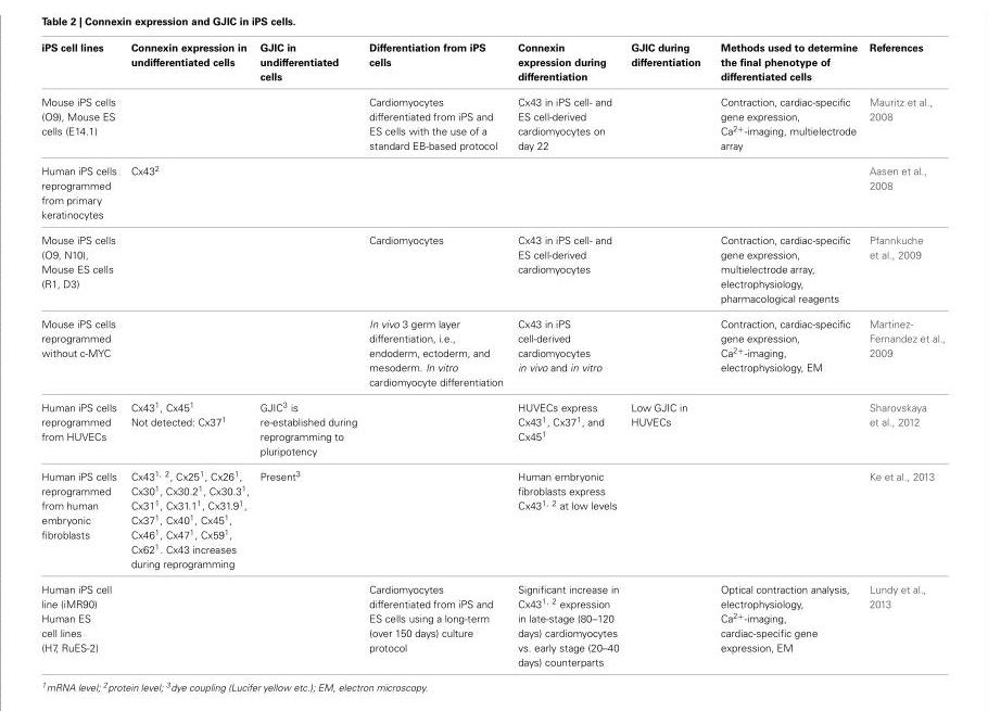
<table><thead><tr><td>iPS cell lines</td><td>Connexin expression in undifferentiated cells</td><td>GJIC in undifferentiated cells</td><td>Differentiation from iPS cells</td><td>Connexin expression during differentiation</td><td>GJIC during differentiation</td><td>Methods used to determine the final phenotype of differentiated cells</td><td>References</td></tr></thead><tbody><tr><td>Mouse iPS cells (O9), Mouse ES cells (E14.1)</td><td></td><td></td><td>Cardiomyocytes differentiated from iPS and ES cells with the use of a standard EB-based protocol</td><td>Cx43 in iPS cell- and ES cell-derived cardiomyocytes on day 22</td><td></td><td>Contraction, cardiac-specific gene expression, Ca<sup>2+</sup>-imaging, multielectrode array</td><td>Mauritz et al., 2008</td></tr><tr><td>Human iPS cells reprogrammed from primary keratinocytes</td><td>Cx43<sup>2</sup></td><td></td><td></td><td></td><td></td><td></td><td>Aasen et al., 2008</td></tr><tr><td>Mouse iPS cells (O9, N10), Mouse ES cells (R1, D3)</td><td></td><td></td><td>Cardiomyocytes</td><td>Cx43 in iPS cell- and ES cell-derived cardiomyocytes</td><td></td><td>Contraction, cardiac-specific gene expression, multielectrode array, electrophysiology, pharmacological reagents</td><td>Pfannkuche et al., 2009</td></tr><tr><td>Mouse iPS cells reprogrammed without c-MYC</td><td></td><td></td><td>In vivo 3 germ layer differentiation, i.e., endoderm, ectoderm, and mesoderm. In vitro cardiomyocyte differentiation</td><td>Cx43 in iPS cell-derived cardiomyocytes in vivo and in vitro</td><td></td><td>Contraction, cardiac-specific gene expression, Ca<sup>2+</sup>-imaging, electrophysiology, EM</td><td>Martinez- Fernandez et al., 2009</td></tr><tr><td>Human iPS cells reprogrammed from HUVECs</td><td>Cx43<sup>1</sup>, Cx45<sup>1</sup> Not detected: Cx37<sup>1</sup></td><td>GJIC<sup>3</sup> is re-established during reprogramming to pluripotency</td><td></td><td>HUVECs express Cx43<sup>1</sup>, Cx37<sup>1</sup>, and Cx45<sup>1</sup></td><td>Low GJIC in HUVECs</td><td></td><td>Sharovskaya et al., 2012</td></tr><tr><td>Human iPS cells reprogrammed from human embryonic fibroblasts</td><td>Cx43<sup>1</sup>, <sup>2</sup>, Cx25<sup>1</sup>, Cx26<sup>1</sup>, Cx30<sup>1</sup>, Cx30.2<sup>1</sup>, Cx30.3<sup>1</sup>, Cx31<sup>1</sup>, Cx31.1<sup>1</sup>, Cx31.9<sup>1</sup>, Cx37<sup>1</sup>, Cx40<sup>1</sup>, Cx45<sup>1</sup>, Cx46<sup>1</sup>, Cx47<sup>1</sup>, Cx59<sup>1</sup>, Cx62<sup>1</sup>. Cx43 increases during reprogramming</td><td>Present<sup>3</sup></td><td></td><td>Human embryonic fibroblasts express Cx43<sup>1</sup>, <sup>2</sup> at low levels</td><td></td><td></td><td>Ke et al., 2013</td></tr><tr><td>Human iPS cell line (iMR90) Human ES cell lines (H7, RuES-2)</td><td></td><td></td><td>Cardiomyocytes differentiated from iPS and ES cells using a long-term (over 150 days) culture protocol</td><td>Significant increase in Cx43<sup>1</sup>, <sup>2</sup> expression in late-stage (80–120 days) cardiomyocytes vs. early stage (20–40 days) counterparts</td><td></td><td>Optical contraction analysis, electrophysiology, Ca<sup>2+</sup>-imaging, cardiac-specific gene expression, EM</td><td>Lundy et al., 2013</td></tr></tbody></table>